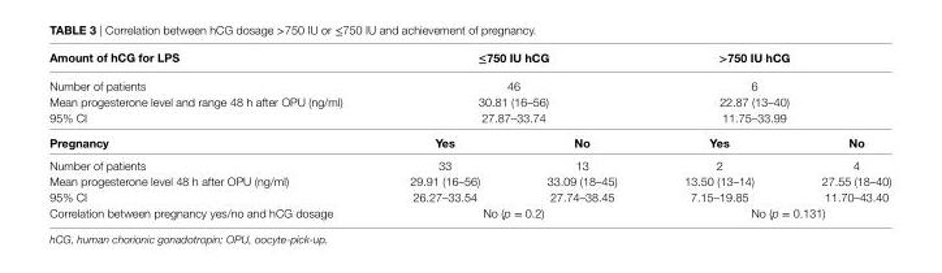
<table><thead><tr><td>amount of hcg for lPs</td><td colspan="2">≤750 iU hcg</td><td colspan="2">&gt;750 iU hcg</td></tr></thead><tbody><tr><td>Number of patients</td><td colspan="2">46</td><td colspan="2">6</td></tr><tr><td>Mean progesterone level and range 48 h after OPU (ng/ml)</td><td colspan="2">30.81 (16–56)</td><td colspan="2">22.87 (13–40)</td></tr><tr><td>95% CI</td><td colspan="2">27.87–33.74</td><td colspan="2">11.75–33.99</td></tr><tr><td>Pregnancy</td><td>Yes</td><td>no</td><td>Yes</td><td>no</td></tr><tr><td>Number of patients</td><td>33</td><td>13</td><td>2</td><td>4</td></tr><tr><td>Mean progesterone level 48 h after OPU (ng/ml)</td><td>29.91 (16–56)</td><td>33.09 (18–45)</td><td>13.50 (13–14)</td><td>27.55 (18–40)</td></tr><tr><td>95% CI</td><td>26.27–33.54</td><td>27.74–38.45</td><td>7.15–19.85</td><td>11.70–43.40</td></tr><tr><td>Correlation between pregnancy yes/no and hCG dosage</td><td colspan="2">No (p = 0.2)</td><td colspan="2">No (p = 0.131)</td></tr></tbody></table>